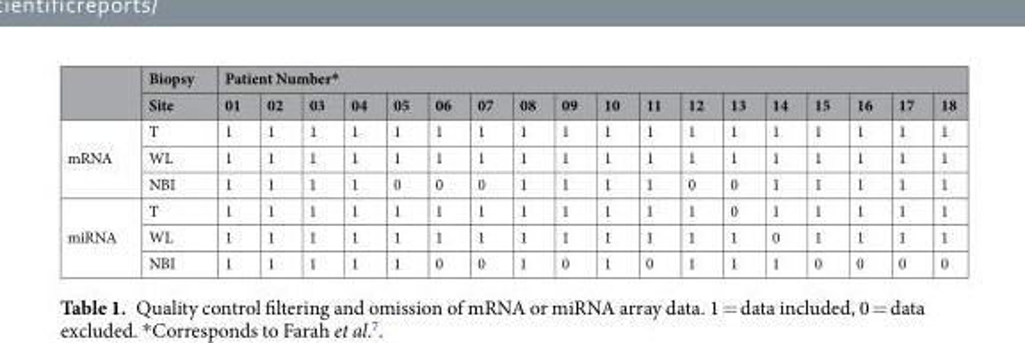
<table><thead><tr><td rowspan="2"></td><td rowspan="2">Biopsy Site</td><td colspan="18">Patient Number*</td></tr><tr><td>01</td><td>02</td><td>03</td><td>04</td><td>05</td><td>06</td><td>07</td><td>08</td><td>09</td><td>10</td><td>11</td><td>12</td><td>13</td><td>14</td><td>15</td><td>16</td><td>17</td><td>18</td></tr></thead><tbody><tr><td rowspan="3">mRNA</td><td>T</td><td>1</td><td>1</td><td>1</td><td>1</td><td>1</td><td>1</td><td>1</td><td>1</td><td>1</td><td>1</td><td>1</td><td>1</td><td>1</td><td>1</td><td>1</td><td>1</td><td>1</td><td>1</td></tr><tr><td>WL</td><td>1</td><td>1</td><td>1</td><td>1</td><td>1</td><td>1</td><td>1</td><td>1</td><td>1</td><td>1</td><td>1</td><td>1</td><td>1</td><td>1</td><td>1</td><td>1</td><td>1</td><td>1</td></tr><tr><td>NBI</td><td>1</td><td>1</td><td>1</td><td>1</td><td>0</td><td>0</td><td>0</td><td>1</td><td>1</td><td>1</td><td>1</td><td>0</td><td>0</td><td>1</td><td>1</td><td>1</td><td>1</td><td>1</td></tr><tr><td rowspan="3">miRNA</td><td>T</td><td>1</td><td>1</td><td>1</td><td>1</td><td>1</td><td>1</td><td>1</td><td>1</td><td>1</td><td>1</td><td>1</td><td>1</td><td>0</td><td>1</td><td>1</td><td>1</td><td>1</td><td>1</td></tr><tr><td>WL</td><td>1</td><td>1</td><td>1</td><td>1</td><td>1</td><td>1</td><td>1</td><td>1</td><td>1</td><td>1</td><td>1</td><td>1</td><td>1</td><td>0</td><td>1</td><td>1</td><td>1</td><td>1</td></tr><tr><td>NBI</td><td>1</td><td>1</td><td>1</td><td>1</td><td>1</td><td>0</td><td>0</td><td>1</td><td>0</td><td>1</td><td>0</td><td>1</td><td>1</td><td>1</td><td>0</td><td>0</td><td>0</td><td>0</td></tr></tbody></table>